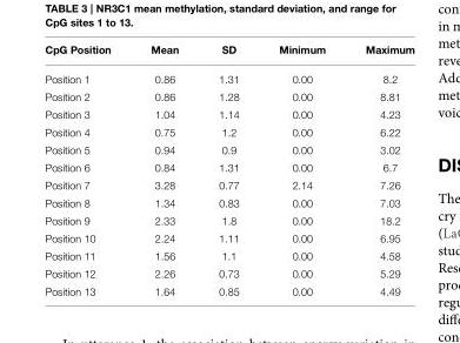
<table><thead><tr><td>CpG Position</td><td>Mean</td><td>SD</td><td>Minimum</td><td>Maximum</td></tr></thead><tbody><tr><td>Position 1</td><td>0.86</td><td>1.31</td><td>0.00</td><td>8.2</td></tr><tr><td>Position 2</td><td>0.86</td><td>1.28</td><td>0.00</td><td>8.81</td></tr><tr><td>Position 3</td><td>1.04</td><td>1.14</td><td>0.00</td><td>4.23</td></tr><tr><td>Position 4</td><td>0.75</td><td>1.2</td><td>0.00</td><td>6.22</td></tr><tr><td>Position 5</td><td>0.94</td><td>0.9</td><td>0.00</td><td>3.02</td></tr><tr><td>Position 6</td><td>0.84</td><td>1.31</td><td>0.00</td><td>6.7</td></tr><tr><td>Position 7</td><td>3.28</td><td>0.77</td><td>2.14</td><td>7.26</td></tr><tr><td>Position 8</td><td>1.34</td><td>0.83</td><td>0.00</td><td>7.03</td></tr><tr><td>Position 9</td><td>2.33</td><td>1.8</td><td>0.00</td><td>18.2</td></tr><tr><td>Position 10</td><td>2.24</td><td>1.11</td><td>0.00</td><td>6.95</td></tr><tr><td>Position 11</td><td>1.56</td><td>1.1</td><td>0.00</td><td>4.58</td></tr><tr><td>Position 12</td><td>2.26</td><td>0.73</td><td>0.00</td><td>5.29</td></tr><tr><td>Position 13</td><td>1.64</td><td>0.85</td><td>0.00</td><td>4.49</td></tr></tbody></table>